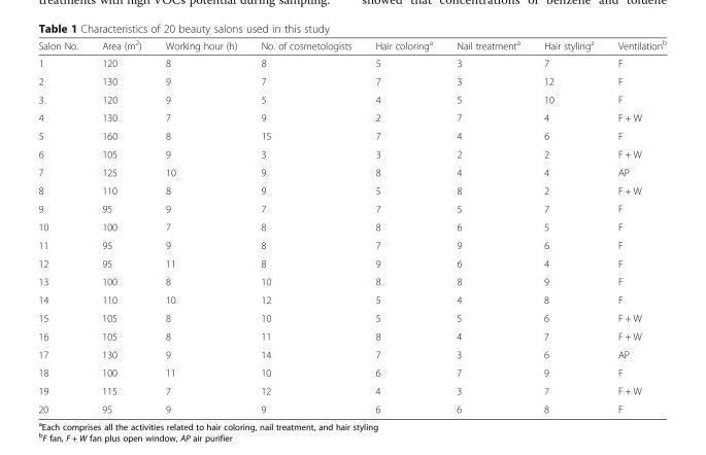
<table><thead><tr><td>Salon No.</td><td>Area (m<sup>2</sup>)</td><td>Working hour (h)</td><td>No. of cosmetologists</td><td>Hair coloring<sup>a</sup></td><td>Nail treatment<sup>a</sup></td><td>Hair styling<sup>a</sup></td><td>Ventilation<sup>b</sup></td></tr></thead><tbody><tr><td>1</td><td>120</td><td>8</td><td>8</td><td>5</td><td>3</td><td>7</td><td>F</td></tr><tr><td>2</td><td>130</td><td>9</td><td>7</td><td>7</td><td>3</td><td>12</td><td>F</td></tr><tr><td>3</td><td>120</td><td>9</td><td>5</td><td>4</td><td>5</td><td>10</td><td>F</td></tr><tr><td>4</td><td>130</td><td>7</td><td>9</td><td>2</td><td>7</td><td>4</td><td>F + W</td></tr><tr><td>5</td><td>160</td><td>8</td><td>15</td><td>7</td><td>4</td><td>6</td><td>F</td></tr><tr><td>6</td><td>105</td><td>9</td><td>3</td><td>3</td><td>2</td><td>2</td><td>F + W</td></tr><tr><td>7</td><td>125</td><td>10</td><td>9</td><td>8</td><td>4</td><td>4</td><td>AP</td></tr><tr><td>8</td><td>110</td><td>8</td><td>9</td><td>5</td><td>8</td><td>2</td><td>F + W</td></tr><tr><td>9</td><td>95</td><td>9</td><td>7</td><td>7</td><td>5</td><td>7</td><td>F</td></tr><tr><td>10</td><td>100</td><td>7</td><td>8</td><td>8</td><td>6</td><td>5</td><td>F</td></tr><tr><td>11</td><td>95</td><td>9</td><td>8</td><td>7</td><td>9</td><td>6</td><td>F</td></tr><tr><td>12</td><td>95</td><td>11</td><td>8</td><td>9</td><td>6</td><td>4</td><td>F</td></tr><tr><td>13</td><td>100</td><td>8</td><td>10</td><td>8</td><td>8</td><td>9</td><td>F</td></tr><tr><td>14</td><td>110</td><td>10</td><td>12</td><td>5</td><td>4</td><td>8</td><td>F</td></tr><tr><td>15</td><td>105</td><td>8</td><td>10</td><td>5</td><td>5</td><td>6</td><td>F + W</td></tr><tr><td>16</td><td>105</td><td>8</td><td>11</td><td>8</td><td>4</td><td>7</td><td>F + W</td></tr><tr><td>17</td><td>130</td><td>9</td><td>14</td><td>7</td><td>3</td><td>6</td><td>AP</td></tr><tr><td>18</td><td>100</td><td>11</td><td>10</td><td>6</td><td>7</td><td>9</td><td>F</td></tr><tr><td>19</td><td>115</td><td>7</td><td>12</td><td>4</td><td>3</td><td>7</td><td>F + W</td></tr><tr><td>20</td><td>95</td><td>9</td><td>9</td><td>6</td><td>6</td><td>8</td><td>F</td></tr></tbody></table>